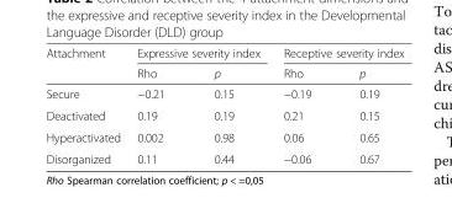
<table><thead><tr><td rowspan="2">Attachment</td><td colspan="2">Expressive severity index</td><td colspan="2">Receptive severity index</td></tr><tr><td>Rho</td><td>p</td><td>Rho</td><td>p</td></tr></thead><tbody><tr><td>Secure</td><td>−0.21</td><td>0.15</td><td>−0.19</td><td>0.19</td></tr><tr><td>Deactivated</td><td>0.19</td><td>0.19</td><td>0.21</td><td>0.15</td></tr><tr><td>Hyperactivated</td><td>0.002</td><td>0.98</td><td>0.06</td><td>0.65</td></tr><tr><td>Disorganized</td><td>0.11</td><td>0.44</td><td>−0.06</td><td>0.67</td></tr></tbody></table>